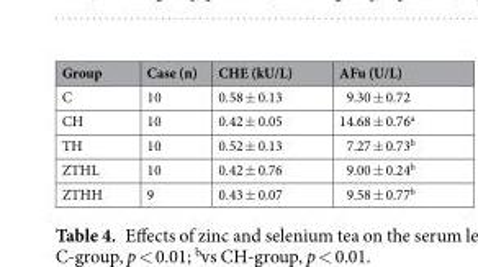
<table><thead><tr><td>Group</td><td>Case (n)</td><td>CHE (kU/L)</td><td>AFu (U/L)</td></tr></thead><tbody><tr><td>C</td><td>10</td><td>0.58 ± 0.13</td><td>9.30 ± 0.72</td></tr><tr><td>CH</td><td>10</td><td>0.42 ± 0.05</td><td>14.68 ± 0.76<sup>a</sup></td></tr><tr><td>TH</td><td>10</td><td>0.52 ± 0.13</td><td>7.27 ± 0.73<sup>b</sup></td></tr><tr><td>ZTHL</td><td>10</td><td>0.42 ± 0.76</td><td>9.00 ± 0.24<sup>b</sup></td></tr><tr><td>ZTHH</td><td>9</td><td>0.43 ± 0.07</td><td>9.58 ± 0.77<sup>b</sup></td></tr></tbody></table>